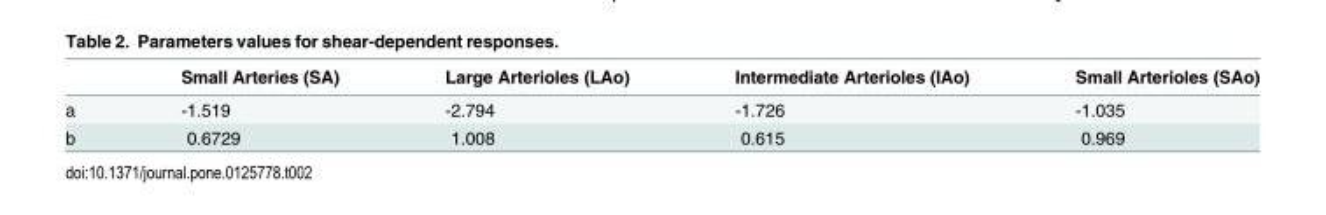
<table><thead><tr><td></td><td>Small Arteries (SA)</td><td>Large Arterioles (LAo)</td><td>Intermediate Arterioles (IAo)</td><td>Small Arterioles (SAo)</td></tr></thead><tbody><tr><td>a</td><td>-1.519</td><td>-2.794</td><td>-1.726</td><td>-1.035</td></tr><tr><td>b</td><td>0.6729</td><td>1.008</td><td>0.615</td><td>0.969</td></tr></tbody></table>